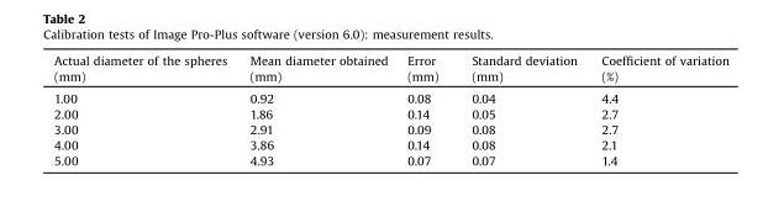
<table><thead><tr><td>Actual diameter of the spheres (mm)</td><td>Mean diameter obtained (mm)</td><td>Error (mm)</td><td>Standard deviation (mm)</td><td>Coefficient of variation (%)</td></tr></thead><tbody><tr><td>1.00</td><td>0.92</td><td>0.08</td><td>0.04</td><td>4.4</td></tr><tr><td>2.00</td><td>1.86</td><td>0.14</td><td>0.05</td><td>2.7</td></tr><tr><td>3.00</td><td>2.91</td><td>0.09</td><td>0.08</td><td>2.7</td></tr><tr><td>4.00</td><td>3.86</td><td>0.14</td><td>0.08</td><td>2.1</td></tr><tr><td>5.00</td><td>4.93</td><td>0.07</td><td>0.07</td><td>1.4</td></tr></tbody></table>